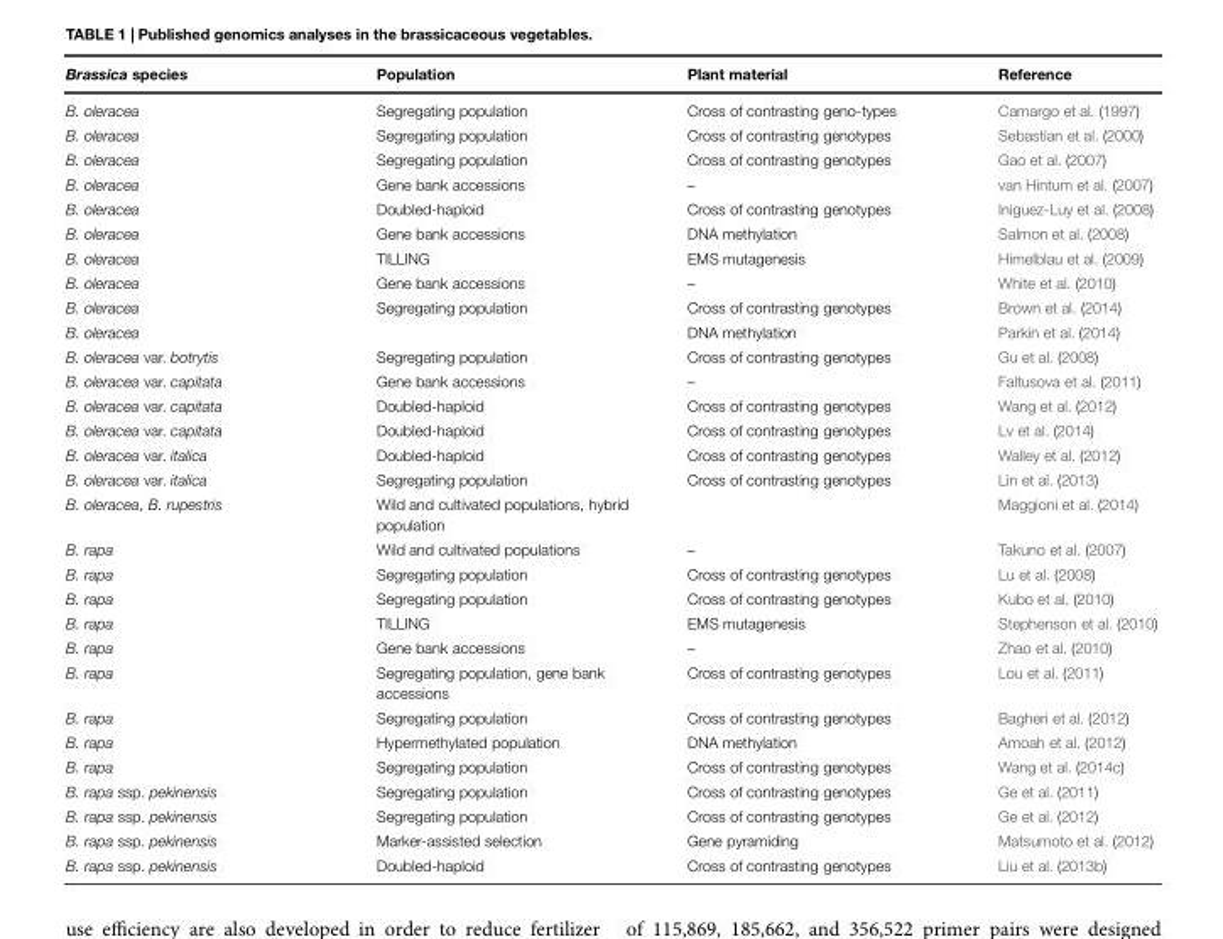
<table><thead><tr><td>Brassica species</td><td>Population</td><td>Plant material</td><td>Reference</td></tr></thead><tbody><tr><td>B. oleracea</td><td>Segregating population</td><td>Cross of contrasting geno-types</td><td>Camargo et al. (1997)</td></tr><tr><td>B. oleracea</td><td>Segregating population</td><td>Cross of contrasting genotypes</td><td>Sebastian et al. (2000)</td></tr><tr><td>B. oleracea</td><td>Segregating population</td><td>Cross of contrasting genotypes</td><td>Gao et al. (2007)</td></tr><tr><td>B. oleracea</td><td>Gene bank accessions</td><td>–</td><td>van Hintum et al. (2007)</td></tr><tr><td>B. oleracea</td><td>Doubled-haploid</td><td>Cross of contrasting genotypes</td><td>Iniguez-Luy et al. (2008)</td></tr><tr><td>B. oleracea</td><td>Gene bank accessions</td><td>DNA methylation</td><td>Salmon et al. (2008)</td></tr><tr><td>B. oleracea</td><td>TILLING</td><td>EMS mutagenesis</td><td>Himelblau et al. (2009)</td></tr><tr><td>B. oleracea</td><td>Gene bank accessions</td><td>–</td><td>White et al. (2010)</td></tr><tr><td>B. oleracea</td><td>Segregating population</td><td>Cross of contrasting genotypes</td><td>Brown et al. (2014)</td></tr><tr><td>B. oleracea</td><td></td><td>DNA methylation</td><td>Parkin et al. (2014)</td></tr><tr><td>B. oleracea var. botrytis</td><td>Segregating population</td><td>Cross of contrasting genotypes</td><td>Gu et al. (2008)</td></tr><tr><td>B. oleracea var. capitata</td><td>Gene bank accessions</td><td>–</td><td>Faltusova et al. (2011)</td></tr><tr><td>B. oleracea var. capitata</td><td>Doubled-haploid</td><td>Cross of contrasting genotypes</td><td>Wang et al. (2012)</td></tr><tr><td>B. oleracea var. capitata</td><td>Doubled-haploid</td><td>Cross of contrasting genotypes</td><td>Lv et al. (2014)</td></tr><tr><td>B. oleracea var. italica</td><td>Doubled-haploid</td><td>Cross of contrasting genotypes</td><td>Walley et al. (2012)</td></tr><tr><td>B. oleracea var. italica</td><td>Segregating population</td><td>Cross of contrasting genotypes</td><td>Lin et al. (2013)</td></tr><tr><td>B. oleracea, B. rupestris</td><td>Wild and cultivated populations, hybrid population</td><td></td><td>Maggioni et al. (2014)</td></tr><tr><td>B. rapa</td><td>Wild and cultivated populations</td><td>–</td><td>Takuno et al. (2007)</td></tr><tr><td>B. rapa</td><td>Segregating population</td><td>Cross of contrasting genotypes</td><td>Lu et al. (2008)</td></tr><tr><td>B. rapa</td><td>Segregating population</td><td>Cross of contrasting genotypes</td><td>Kubo et al. (2010)</td></tr><tr><td>B. rapa</td><td>TILLING</td><td>EMS mutagenesis</td><td>Stephenson et al. (2010)</td></tr><tr><td>B. rapa</td><td>Gene bank accessions</td><td>–</td><td>Zhao et al. (2010)</td></tr><tr><td>B. rapa</td><td>Segregating population, gene bank accessions</td><td>Cross of contrasting genotypes</td><td>Lou et al. (2011)</td></tr><tr><td>B. rapa</td><td>Segregating population</td><td>Cross of contrasting genotypes</td><td>Bagheri et al. (2012)</td></tr><tr><td>B. rapa</td><td>Hypermethylated population</td><td>DNA methylation</td><td>Amoah et al. (2012)</td></tr><tr><td>B. rapa</td><td>Segregating population</td><td>Cross of contrasting genotypes</td><td>Wang et al. (2014c)</td></tr><tr><td>B. rapa ssp. pekinensis</td><td>Segregating population</td><td>Cross of contrasting genotypes</td><td>Ge et al. (2011)</td></tr><tr><td>B. rapa ssp. pekinensis</td><td>Segregating population</td><td>Cross of contrasting genotypes</td><td>Ge et al. (2012)</td></tr><tr><td>B. rapa ssp. pekinensis</td><td>Marker-assisted selection</td><td>Gene pyramiding</td><td>Matsumoto et al. (2012)</td></tr><tr><td>B. rapa ssp. pekinensis</td><td>Doubled-haploid</td><td>Cross of contrasting genotypes</td><td>Liu et al. (2013b)</td></tr></tbody></table>